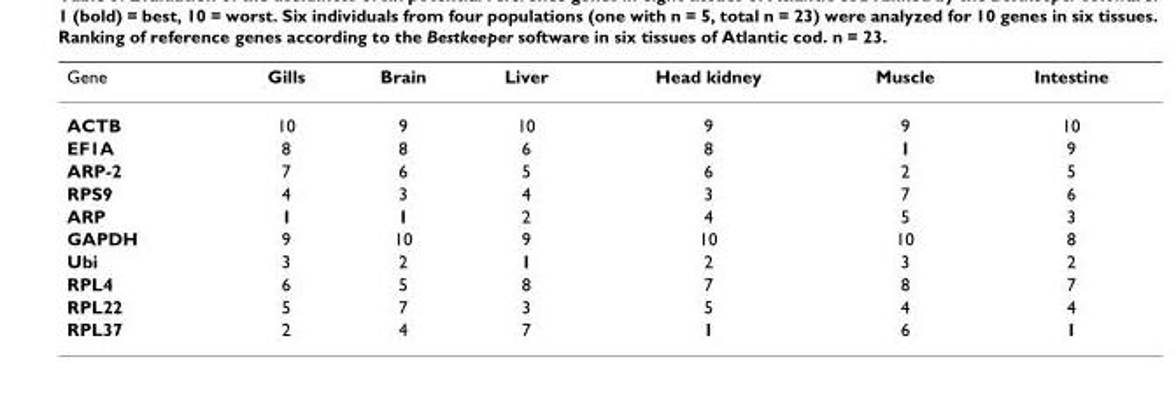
<table><thead><tr><td>Gene</td><td>Gills</td><td>Brain</td><td>Liver</td><td>Head kidney</td><td>Muscle</td><td>Intestine</td></tr></thead><tbody><tr><td>ACTB</td><td>10</td><td>9</td><td>10</td><td>9</td><td>9</td><td>10</td></tr><tr><td>EF1A</td><td>8</td><td>8</td><td>6</td><td>8</td><td>1</td><td>9</td></tr><tr><td>ARP-2</td><td>7</td><td>6</td><td>5</td><td>6</td><td>2</td><td>5</td></tr><tr><td>RPS9</td><td>4</td><td>3</td><td>4</td><td>3</td><td>7</td><td>6</td></tr><tr><td>ARP</td><td>1</td><td>1</td><td>2</td><td>4</td><td>5</td><td>3</td></tr><tr><td>GAPDH</td><td>9</td><td>10</td><td>9</td><td>10</td><td>10</td><td>8</td></tr><tr><td>Ubi</td><td>3</td><td>2</td><td>1</td><td>2</td><td>3</td><td>2</td></tr><tr><td>RPL4</td><td>6</td><td>5</td><td>8</td><td>7</td><td>8</td><td>7</td></tr><tr><td>RPL22</td><td>5</td><td>7</td><td>3</td><td>5</td><td>4</td><td>4</td></tr><tr><td>RPL37</td><td>2</td><td>4</td><td>7</td><td>1</td><td>6</td><td>1</td></tr></tbody></table>